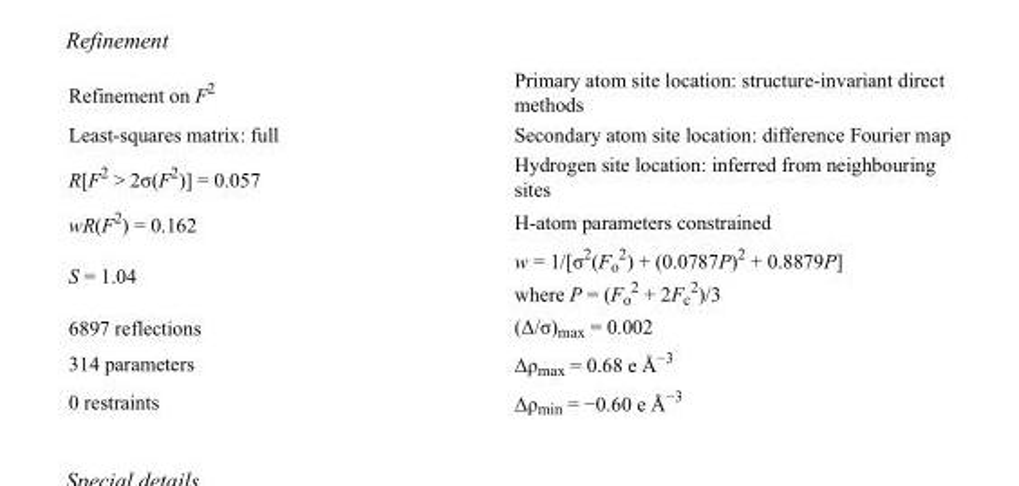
<table><tbody><tr><td>Refinement on F<sup>2</sup></td><td>Primary atom site location: structure-invariant direct methods</td></tr><tr><td>Least-squares matrix: full</td><td>Secondary atom site location: difference Fourier map</td></tr><tr><td>R[F<sup>2</sup> &gt; 2σ(F<sup>2</sup>)] = 0.057</td><td>Hydrogen site location: inferred from neighbouring sites</td></tr><tr><td>wR(F<sup>2</sup>) = 0.162</td><td>H-atom parameters constrained</td></tr><tr><td>S = 1.04</td><td>w = 1/[σ<sup>2</sup>(F<sub>o</sub> <sup>2</sup>) + (0.0787P)<sup>2</sup> + 0.8879P] where P = (F<sub>o</sub> <sup>2</sup> + 2F<sub>c</sub> <sup>2</sup>)/3</td></tr><tr><td>6897 reflections</td><td>(Δ/σ)<sub>max</sub> = 0.002</td></tr><tr><td>314 parameters</td><td>Δρ<sub>max</sub> = 0.68 e Å<sup>−3</sup></td></tr><tr><td>0 restraints</td><td>Δρ<sub>min</sub> = −0.60 e Å<sup>−3</sup></td></tr></tbody></table>